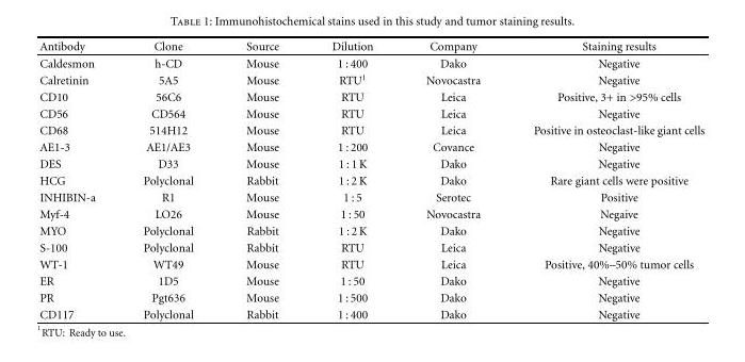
<table><thead><tr><td>Antibody</td><td>Clone</td><td>Source</td><td>Dilution</td><td>Company</td><td>Staining results</td></tr></thead><tbody><tr><td>Caldesmon</td><td>h-CD</td><td>Mouse</td><td>1 : 400</td><td>Dako</td><td>Negative</td></tr><tr><td>Calretinin</td><td>5A5</td><td>Mouse</td><td>RTU<sup>1</sup></td><td>Novocastra</td><td>Negative</td></tr><tr><td>CD10</td><td>56C6</td><td>Mouse</td><td>RTU</td><td>Leica</td><td>Positive, 3+ in &gt;95% cells</td></tr><tr><td>CD56</td><td>CD564</td><td>Mouse</td><td>RTU</td><td>Leica</td><td>Negative</td></tr><tr><td>CD68</td><td>514H12</td><td>Mouse</td><td>RTU</td><td>Leica</td><td>Positive in osteoclast-like giant cells</td></tr><tr><td>AE1-3</td><td>AE1/AE3</td><td>Mouse</td><td>1 : 200</td><td>Covance</td><td>Negative</td></tr><tr><td>DES</td><td>D33</td><td>Mouse</td><td>1 : 1 K</td><td>Dako</td><td>Negative</td></tr><tr><td>HCG</td><td>Polyclonal</td><td>Rabbit</td><td>1 : 2 K</td><td>Dako</td><td>Rare giant cells were positive</td></tr><tr><td>INHIBIN-a</td><td>R1</td><td>Mouse</td><td>1 : 5</td><td>Serotec</td><td>Positive</td></tr><tr><td>Myf-4</td><td>LO26</td><td>Mouse</td><td>1 : 50</td><td>Novocastra</td><td>Negaive</td></tr><tr><td>MYO</td><td>Polyclonal</td><td>Rabbit</td><td>1 : 2 K</td><td>Dako</td><td>Negative</td></tr><tr><td>S-100</td><td>Polyclonal</td><td>Rabbit</td><td>RTU</td><td>Leica</td><td>Negative</td></tr><tr><td>WT-1</td><td>WT49</td><td>Mouse</td><td>RTU</td><td>Leica</td><td>Positive, 40%–50% tumor cells</td></tr><tr><td>ER</td><td>1D5</td><td>Mouse</td><td>1 : 50</td><td>Dako</td><td>Negative</td></tr><tr><td>PR</td><td>Pgt636</td><td>Mouse</td><td>1 : 500</td><td>Dako</td><td>Negative</td></tr><tr><td>CD117</td><td>Polyclonal</td><td>Rabbit</td><td>1 : 400</td><td>Dako</td><td>Negative</td></tr></tbody></table>